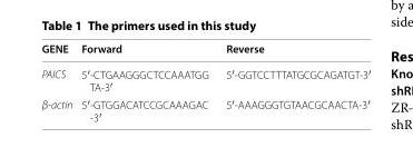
<table><thead><tr><td>GENE</td><td>Forward</td><td>Reverse</td></tr></thead><tbody><tr><td>PAICS</td><td>5′-CTG AAG GGC TCC AAA TGG TA-3′</td><td>5′-GGT CCT TTA TGC GCA GAT GT-3′</td></tr><tr><td>β-actin</td><td>5′-GTG GAC ATC CGC AAA GAC -3′</td><td>5′-AAA GGG TGT AAC GCA ACT A-3′</td></tr></tbody></table>